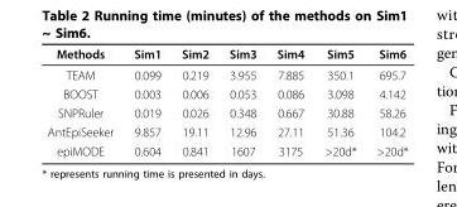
<table><thead><tr><td>Methods</td><td>Sim1</td><td>Sim2</td><td>Sim3</td><td>Sim4</td><td>Sim5</td><td>Sim6</td></tr></thead><tbody><tr><td>TEAM</td><td>0.099</td><td>0.219</td><td>3.955</td><td>7.885</td><td>350.1</td><td>695.7</td></tr><tr><td>BOOST</td><td>0.003</td><td>0.006</td><td>0.053</td><td>0.086</td><td>3.098</td><td>4.142</td></tr><tr><td>SNPRuler</td><td>0.019</td><td>0.026</td><td>0.348</td><td>0.667</td><td>30.88</td><td>58.26</td></tr><tr><td>AntEpiSeeker</td><td>9.857</td><td>19.11</td><td>12.96</td><td>27.11</td><td>51.36</td><td>104.2</td></tr><tr><td>epiMODE</td><td>0.604</td><td>0.841</td><td>1607</td><td>3175</td><td>&gt;20d*</td><td>&gt;20d*</td></tr></tbody></table>